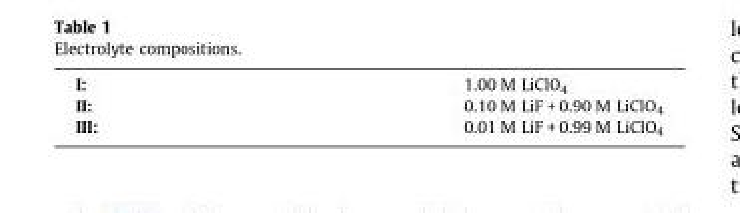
<table><tbody><tr><td>I:</td><td>1.00 M LiClO<sub>4</sub></td></tr><tr><td>II:</td><td>0.10 M LiF + 0.90 M LiClO<sub>4</sub></td></tr><tr><td>III:</td><td>0.01 M LiF + 0.99 M LiClO<sub>4</sub></td></tr></tbody></table>